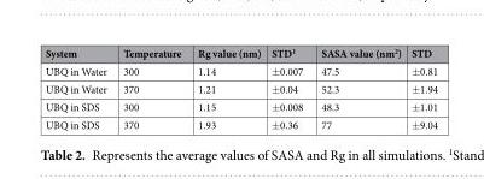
<table><thead><tr><td>System</td><td>Temperature</td><td>Rg value (nm)</td><td>STD<sup>1</sup></td><td>SASA value (nm<sup>2</sup>)</td><td>STD</td></tr></thead><tbody><tr><td>UBQ in Water</td><td>300</td><td>1.14</td><td>±0.007</td><td>47.5</td><td>±0.81</td></tr><tr><td>UBQ in Water</td><td>370</td><td>1.21</td><td>±0.04</td><td>52.3</td><td>±1.94</td></tr><tr><td>UBQ in SDS</td><td>300</td><td>1.15</td><td>±0.008</td><td>48.3</td><td>±1.01</td></tr><tr><td>UBQ in SDS</td><td>370</td><td>1.93</td><td>±0.36</td><td>77</td><td>±9.04</td></tr></tbody></table>